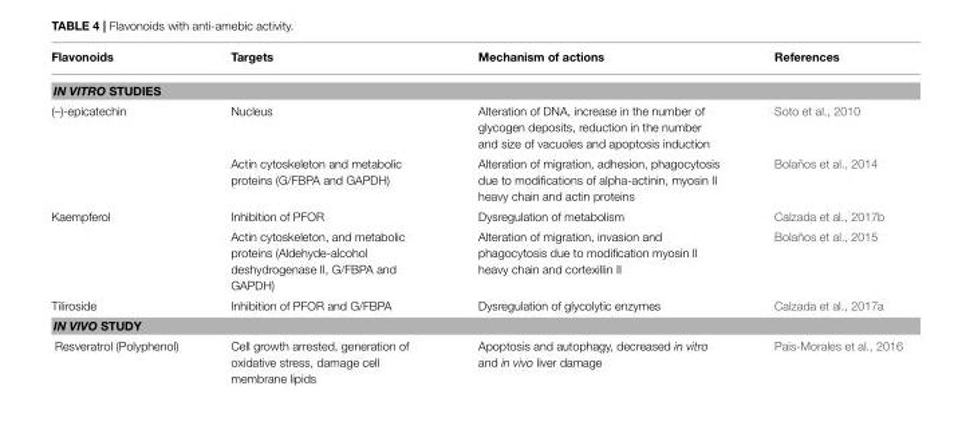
<table><thead><tr><td>Flavonoids</td><td>Targets</td><td>Mechanism of actions</td><td>References</td></tr></thead><tbody><tr><td colspan="4">IN VITRO STUDIES</td></tr><tr><td rowspan="2">(–)-epicatechin</td><td>Nucleus</td><td>Alteration of DNA, increase in the number of glycogen deposits, reduction in the number and size of vacuoles and apoptosis induction</td><td>Soto et al., 2010</td></tr><tr><td>Actin cytoskeleton and metabolic proteins (G/FBPA and GAPDH)</td><td>Alteration of migration, adhesion, phagocytosis due to modifications of alpha-actinin, myosin II heavy chain and actin proteins</td><td>Bolaños et al., 2014</td></tr><tr><td rowspan="2">Kaempferol</td><td>Inhibition of PFOR</td><td>Dysregulation of metabolism</td><td>Calzada et al., 2017b</td></tr><tr><td>Actin cytoskeleton, and metabolic proteins (Aldehyde-alcohol deshydrogenase II, G/FBPA and GAPDH)</td><td>Alteration of migration, invasion and phagocytosis due to modification myosin II heavy chain and cortexillin II</td><td>Bolaños et al., 2015</td></tr><tr><td>Tiliroside</td><td>Inhibition of PFOR and G/FBPA</td><td>Dysregulation of glycolytic enzymes</td><td>Calzada et al., 2017a</td></tr><tr><td colspan="4">IN VIVO STUDY</td></tr><tr><td>Resveratrol (Polyphenol)</td><td>Cell growth arrested, generation of oxidative stress, damage cell membrane lipids</td><td>Apoptosis and autophagy, decreased in vitro and in vivo liver damage</td><td>Pais-Morales et al., 2016</td></tr></tbody></table>